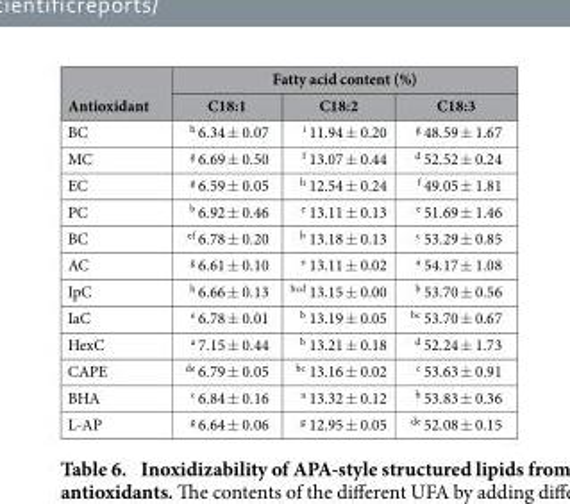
<table><thead><tr><td rowspan="2">Antioxidant</td><td colspan="3">Fatty acid content (%)</td></tr><tr><td>C18:1</td><td>C18:2</td><td>C18:3</td></tr></thead><tbody><tr><td>BC</td><td><sup>h</sup> 6.34 ± 0.07</td><td><sup>i</sup> 11.94 ± 0.20</td><td><sup>g</sup> 48.59 ± 1.67</td></tr><tr><td>MC</td><td><sup>g</sup> 6.69 ± 0.50</td><td><sup>f</sup> 13.07 ± 0.44</td><td><sup>d</sup> 52.52 ± 0.24</td></tr><tr><td>EC</td><td><sup>g</sup> 6.59 ± 0.05</td><td><sup>h</sup> 12.54 ± 0.24</td><td><sup>f</sup> 49.05 ± 1.81</td></tr><tr><td>PC</td><td><sup>b</sup> 6.92 ± 0.46</td><td><sup>e</sup> 13.11 ± 0.13</td><td><sup>e</sup> 51.69 ± 1.46</td></tr><tr><td>BC</td><td><sup>ef</sup> 6.78 ± 0.20</td><td><sup>b</sup> 13.18 ± 0.13</td><td><sup>c</sup> 53.29 ± 0.85</td></tr><tr><td>AC</td><td><sup>g</sup> 6.61 ± 0.10</td><td><sup>e</sup> 13.11 ± 0.02</td><td><sup>a</sup> 54.17 ± 1.08</td></tr><tr><td>IpC</td><td><sup>h</sup> 6.66 ± 0.13</td><td><sup>bcd</sup> 13.15 ± 0.00</td><td><sup>b</sup> 53.70 ± 0.56</td></tr><tr><td>IaC</td><td><sup>e</sup> 6.78 ± 0.01</td><td><sup>b</sup> 13.19 ± 0.05</td><td><sup>bc</sup> 53.70 ± 0.67</td></tr><tr><td>HexC</td><td><sup>a</sup> 7.15 ± 0.44</td><td><sup>b</sup> 13.21 ± 0.18</td><td><sup>d</sup> 52.24 ± 1.73</td></tr><tr><td>CAPE</td><td><sup>de</sup> 6.79 ± 0.05</td><td><sup>bc</sup> 13.16 ± 0.02</td><td><sup>c</sup> 53.63 ± 0.91</td></tr><tr><td>BHA</td><td><sup>c</sup> 6.84 ± 0.16</td><td><sup>a</sup> 13.32 ± 0.12</td><td><sup>b</sup> 53.83 ± 0.36</td></tr><tr><td>L-AP</td><td><sup>g</sup> 6.64 ± 0.06</td><td><sup>g</sup> 12.95 ± 0.05</td><td><sup>de</sup> 52.08 ± 0.15</td></tr></tbody></table>